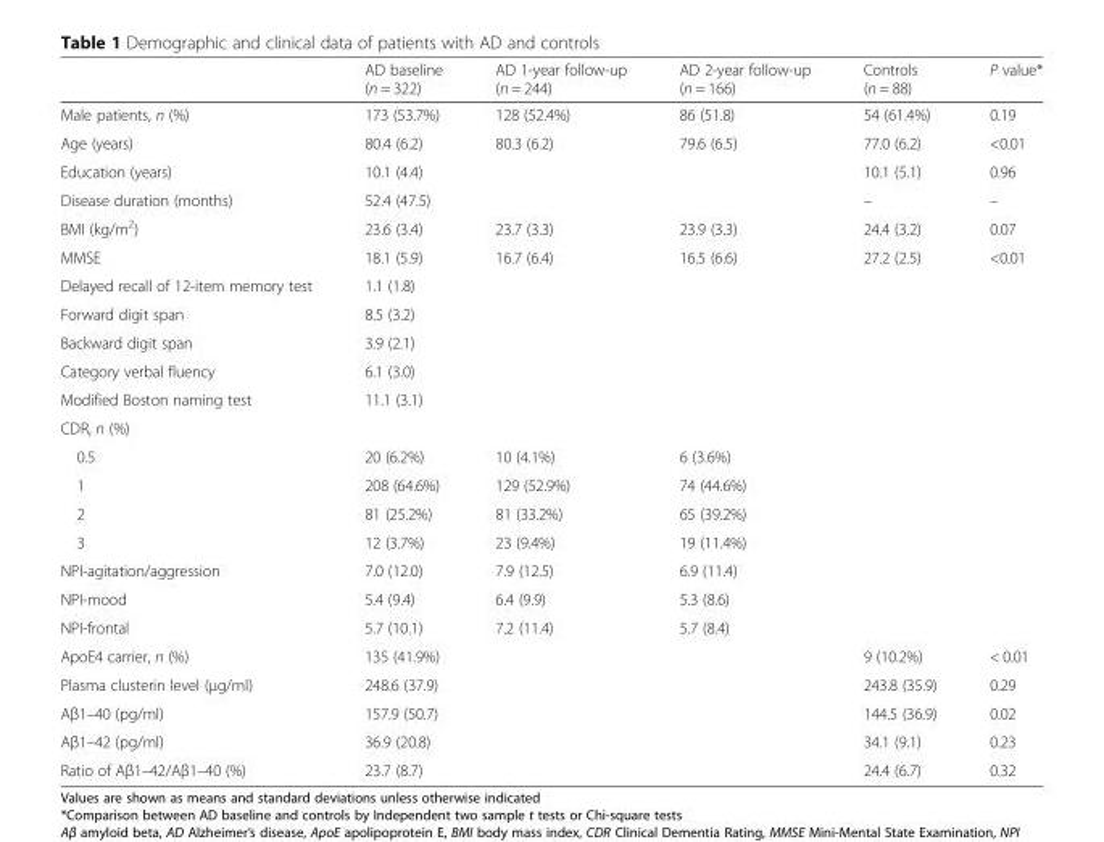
<table><thead><tr><td></td><td>AD baseline (n = 322)</td><td>AD 1-year follow-up (n = 244)</td><td>AD 2-year follow-up (n = 166)</td><td>Controls (n = 88)</td><td>P value*</td></tr></thead><tbody><tr><td>Male patients, n (%)</td><td>173 (53.7%)</td><td>128 (52.4%)</td><td>86 (51.8)</td><td>54 (61.4%)</td><td>0.19</td></tr><tr><td>Age (years)</td><td>80.4 (6.2)</td><td>80.3 (6.2)</td><td>79.6 (6.5)</td><td>77.0 (6.2)</td><td>&lt;0.01</td></tr><tr><td>Education (years)</td><td>10.1 (4.4)</td><td></td><td></td><td>10.1 (5.1)</td><td>0.96</td></tr><tr><td>Disease duration (months)</td><td>52.4 (47.5)</td><td></td><td></td><td>–</td><td>–</td></tr><tr><td>BMI (kg/m<sup>2</sup>)</td><td>23.6 (3.4)</td><td>23.7 (3.3)</td><td>23.9 (3.3)</td><td>24.4 (3.2)</td><td>0.07</td></tr><tr><td>MMSE</td><td>18.1 (5.9)</td><td>16.7 (6.4)</td><td>16.5 (6.6)</td><td>27.2 (2.5)</td><td>&lt;0.01</td></tr><tr><td>Delayed recall of 12-item memory test</td><td>1.1 (1.8)</td><td></td><td></td><td></td><td rowspan="5"></td></tr><tr><td>Forward digit span</td><td>8.5 (3.2)</td><td></td><td></td><td></td></tr><tr><td>Backward digit span</td><td>3.9 (2.1)</td><td></td><td></td><td></td></tr><tr><td>Category verbal fluency</td><td>6.1 (3.0)</td><td></td><td></td><td></td></tr><tr><td>Modified Boston naming test</td><td>11.1 (3.1)</td><td></td><td></td><td></td></tr><tr><td colspan="6">CDR, n (%)</td></tr><tr><td>0.5</td><td>20 (6.2%)</td><td>10 (4.1%)</td><td>6 (3.6%)</td><td></td><td rowspan="7"></td></tr><tr><td>1</td><td>208 (64.6%)</td><td>129 (52.9%)</td><td>74 (44.6%)</td><td></td></tr><tr><td>2</td><td>81 (25.2%)</td><td>81 (33.2%)</td><td>65 (39.2%)</td><td></td></tr><tr><td>3</td><td>12 (3.7%)</td><td>23 (9.4%)</td><td>19 (11.4%)</td><td></td></tr><tr><td>NPI-agitation/aggression</td><td>7.0 (12.0)</td><td>7.9 (12.5)</td><td>6.9 (11.4)</td><td></td></tr><tr><td>NPI-mood</td><td>5.4 (9.4)</td><td>6.4 (9.9)</td><td>5.3 (8.6)</td><td></td></tr><tr><td>NPI-frontal</td><td>5.7 (10.1)</td><td>7.2 (11.4)</td><td>5.7 (8.4)</td><td></td></tr><tr><td>ApoE4 carrier, n (%)</td><td>135 (41.9%)</td><td></td><td></td><td>9 (10.2%)</td><td>&lt; 0.01</td></tr><tr><td>Plasma clusterin level (μg/ml)</td><td>248.6 (37.9)</td><td></td><td></td><td>243.8 (35.9)</td><td>0.29</td></tr><tr><td>Aβ1–40 (pg/ml)</td><td>157.9 (50.7)</td><td></td><td></td><td>144.5 (36.9)</td><td>0.02</td></tr><tr><td>Aβ1–42 (pg/ml)</td><td>36.9 (20.8)</td><td></td><td></td><td>34.1 (9.1)</td><td>0.23</td></tr><tr><td>Ratio of Aβ1–42/Aβ1–40 (%)</td><td>23.7 (8.7)</td><td></td><td></td><td>24.4 (6.7)</td><td>0.32</td></tr></tbody></table>